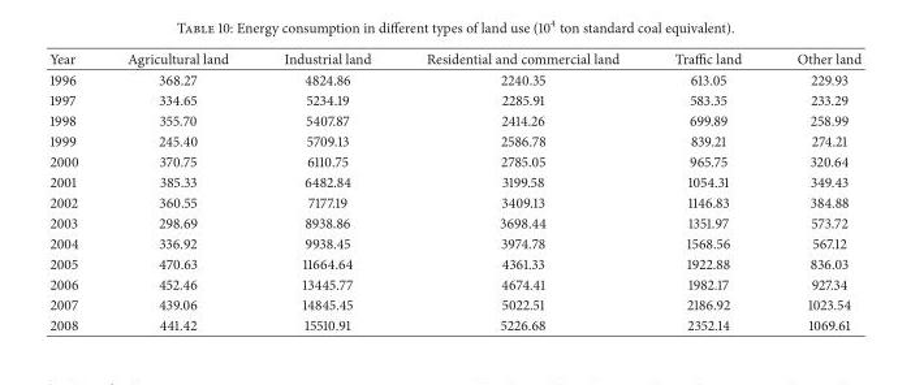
<table><thead><tr><td>Year</td><td>Agricultural land</td><td>Industrial land</td><td>Residential and commercial land</td><td>Traffic land</td><td>Other land</td></tr></thead><tbody><tr><td>1996</td><td>368.27</td><td>4824.86</td><td>2240.35</td><td>613.05</td><td>229.93</td></tr><tr><td>1997</td><td>334.65</td><td>5234.19</td><td>2285.91</td><td>583.35</td><td>233.29</td></tr><tr><td>1998</td><td>355.70</td><td>5407.87</td><td>2414.26</td><td>699.89</td><td>258.99</td></tr><tr><td>1999</td><td>245.40</td><td>5709.13</td><td>2586.78</td><td>839.21</td><td>274.21</td></tr><tr><td>2000</td><td>370.75</td><td>6110.75</td><td>2785.05</td><td>965.75</td><td>320.64</td></tr><tr><td>2001</td><td>385.33</td><td>6482.84</td><td>3199.58</td><td>1054.31</td><td>349.43</td></tr><tr><td>2002</td><td>360.55</td><td>7177.19</td><td>3409.13</td><td>1146.83</td><td>384.88</td></tr><tr><td>2003</td><td>298.69</td><td>8938.86</td><td>3698.44</td><td>1351.97</td><td>573.72</td></tr><tr><td>2004</td><td>336.92</td><td>9938.45</td><td>3974.78</td><td>1568.56</td><td>567.12</td></tr><tr><td>2005</td><td>470.63</td><td>11664.64</td><td>4361.33</td><td>1922.88</td><td>836.03</td></tr><tr><td>2006</td><td>452.46</td><td>13445.77</td><td>4674.41</td><td>1982.17</td><td>927.34</td></tr><tr><td>2007</td><td>439.06</td><td>14845.45</td><td>5022.51</td><td>2186.92</td><td>1023.54</td></tr><tr><td>2008</td><td>441.42</td><td>15510.91</td><td>5226.68</td><td>2352.14</td><td>1069.61</td></tr></tbody></table>